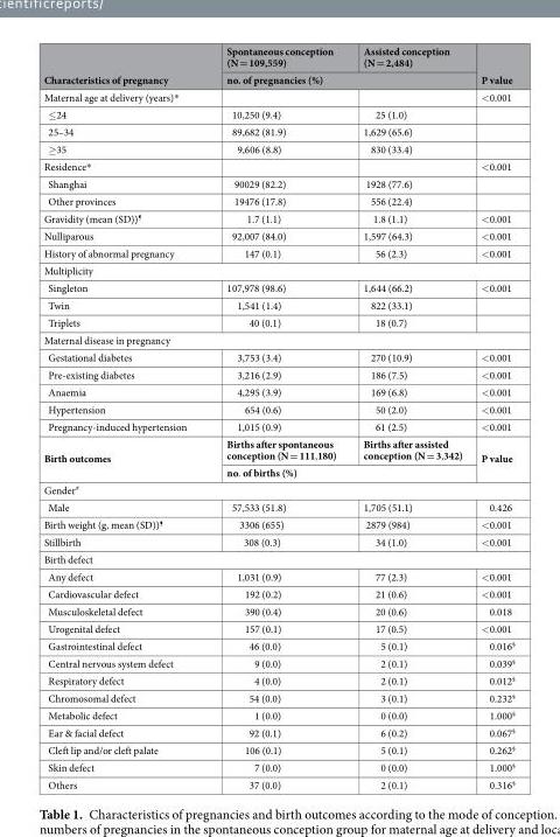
<table><thead><tr><td rowspan="2">Characteristics of pregnancy</td><td>Spontaneous conception (N = 109,559)</td><td>Assisted conception (N = 2,484)</td><td rowspan="2">P value</td></tr><tr><td colspan="2">no. of pregnancies (%)</td></tr></thead><tbody><tr><td>Maternal age at delivery (years)*</td><td></td><td></td><td>&lt;0.001</td></tr><tr><td>≤24</td><td>10,250 (9.4)</td><td>25 (1.0)</td><td></td></tr><tr><td>25–34</td><td>89,682 (81.9)</td><td>1,629 (65.6)</td><td></td></tr><tr><td>≥35</td><td>9,606 (8.8)</td><td>830 (33.4)</td><td></td></tr><tr><td>Residence*</td><td></td><td></td><td>&lt;0.001</td></tr><tr><td>Shanghai</td><td>90029 (82.2)</td><td>1928 (77.6)</td><td></td></tr><tr><td>Other provinces</td><td>19476 (17.8)</td><td>556 (22.4)</td><td></td></tr><tr><td>Gravidity (mean (SD))<sup>¶</sup></td><td>1.7 (1.1)</td><td>1.8 (1.1)</td><td>&lt;0.001</td></tr><tr><td>Nulliparous</td><td>92,007 (84.0)</td><td>1,597 (64.3)</td><td>&lt;0.001</td></tr><tr><td>History of abnormal pregnancy</td><td>147 (0.1)</td><td>56 (2.3)</td><td>&lt;0.001</td></tr><tr><td colspan="4">Multiplicity</td></tr><tr><td>Singleton</td><td>107,978 (98.6)</td><td>1,644 (66.2)</td><td>&lt;0.001</td></tr><tr><td>Twin</td><td>1,541 (1.4)</td><td>822 (33.1)</td><td></td></tr><tr><td>Triplets</td><td>40 (0.1)</td><td>18 (0.7)</td><td></td></tr><tr><td colspan="4">Maternal disease in pregnancy</td></tr><tr><td>Gestational diabetes</td><td>3,753 (3.4)</td><td>270 (10.9)</td><td>&lt;0.001</td></tr><tr><td>Pre-existing diabetes</td><td>3,216 (2.9)</td><td>186 (7.5)</td><td>&lt;0.001</td></tr><tr><td>Anaemia</td><td>4,295 (3.9)</td><td>169 (6.8)</td><td>&lt;0.001</td></tr><tr><td>Hypertension</td><td>654 (0.6)</td><td>50 (2.0)</td><td>&lt;0.001</td></tr><tr><td>Pregnancy-induced hypertension</td><td>1,015 (0.9)</td><td>61 (2.5)</td><td>&lt;0.001</td></tr><tr><td rowspan="2">Birth outcomes</td><td>Births after spontaneous conception (N = 111,180)</td><td>Births after assisted conception (N = 3,342)</td><td rowspan="2">P value</td></tr><tr><td colspan="2">no. of births (%)</td></tr><tr><td colspan="4">Gender<sup>#</sup></td></tr><tr><td>Male</td><td>57,533 (51.8)</td><td>1,705 (51.1)</td><td>0.426</td></tr><tr><td>Birth weight (g, mean (SD))<sup>¶</sup></td><td>3306 (655)</td><td>2879 (984)</td><td>&lt;0.001</td></tr><tr><td>Stillbirth</td><td>308 (0.3)</td><td>34 (1.0)</td><td>&lt;0.001</td></tr><tr><td colspan="4">Birth defect</td></tr><tr><td>Any defect</td><td>1,031 (0.9)</td><td>77 (2.3)</td><td>&lt;0.001</td></tr><tr><td>Cardiovascular defect</td><td>192 (0.2)</td><td>21 (0.6)</td><td>&lt;0.001</td></tr><tr><td>Musculoskeletal defect</td><td>390 (0.4)</td><td>20 (0.6)</td><td>0.018</td></tr><tr><td>Urogenital defect</td><td>157 (0.1)</td><td>17 (0.5)</td><td>&lt;0.001</td></tr><tr><td>Gastrointestinal defect</td><td>46 (0.0)</td><td>5 (0.1)</td><td>0.016<sup>§</sup></td></tr><tr><td>Central nervous system defect</td><td>9 (0.0)</td><td>2 (0.1)</td><td>0.039<sup>§</sup></td></tr><tr><td>Respiratory defect</td><td>4 (0.0)</td><td>2 (0.1)</td><td>0.012<sup>§</sup></td></tr><tr><td>Chromosomal defect</td><td>54 (0.0)</td><td>3 (0.1)</td><td>0.232<sup>§</sup></td></tr><tr><td>Metabolic defect</td><td>1 (0.0)</td><td>0 (0.0)</td><td>1.000<sup>§</sup></td></tr><tr><td>Ear &amp; facial defect</td><td>92 (0.1)</td><td>6 (0.2)</td><td>0.067<sup>§</sup></td></tr><tr><td>Cleft lip and/or cleft palate</td><td>106 (0.1)</td><td>5 (0.1)</td><td>0.262<sup>§</sup></td></tr><tr><td>Skin defect</td><td>7 (0.0)</td><td>0 (0.0)</td><td>1.000<sup>§</sup></td></tr><tr><td>Others</td><td>37 (0.0)</td><td>2 (0.1)</td><td>0.316<sup>§</sup></td></tr></tbody></table>